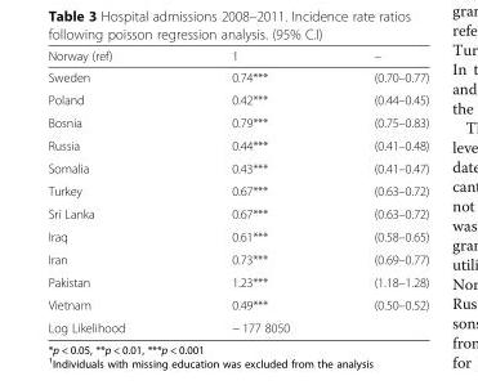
<table><thead><tr><td>Norway (ref)</td><td>1</td><td>–</td></tr></thead><tbody><tr><td>Sweden</td><td>0.74***</td><td>(0.70–0.77)</td></tr><tr><td>Poland</td><td>0.42***</td><td>(0.44–0.45)</td></tr><tr><td>Bosnia</td><td>0.79***</td><td>(0.75–0.83)</td></tr><tr><td>Russia</td><td>0.44***</td><td>(0.41–0.48)</td></tr><tr><td>Somalia</td><td>0.43***</td><td>(0.41–0.47)</td></tr><tr><td>Turkey</td><td>0.67***</td><td>(0.63–0.72)</td></tr><tr><td>Sri Lanka</td><td>0.67***</td><td>(0.63–0.72)</td></tr><tr><td>Iraq</td><td>0.61***</td><td>(0.58–0.65)</td></tr><tr><td>Iran</td><td>0.73***</td><td>(0.69–0.77)</td></tr><tr><td>Pakistan</td><td>1.23***</td><td>(1.18–1.28)</td></tr><tr><td>Vietnam</td><td>0.49***</td><td>(0.50–0.52)</td></tr><tr><td>Log Likelihood</td><td colspan="2">− 177 8050</td></tr></tbody></table>